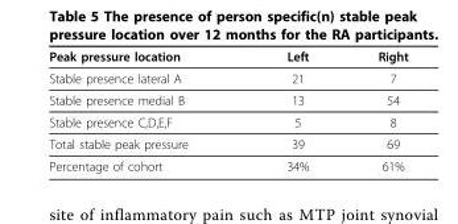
<table><thead><tr><td>Peak pressure location</td><td>Left</td><td>Right</td></tr></thead><tbody><tr><td>Stable presence lateral A</td><td>21</td><td>7</td></tr><tr><td>Stable presence medial B</td><td>13</td><td>54</td></tr><tr><td>Stable presence C,D,E,F</td><td>5</td><td>8</td></tr><tr><td>Total stable peak pressure</td><td>39</td><td>69</td></tr><tr><td>Percentage of cohort</td><td>34%</td><td>61%</td></tr></tbody></table>